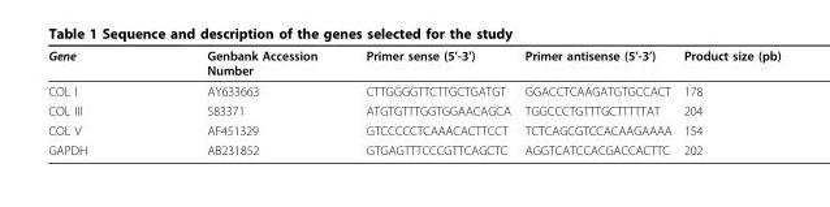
<table><thead><tr><td>Gene</td><td>Genbank Accession Number</td><td>Primer sense (5’-3’)</td><td>Primer antisense (5’-3’)</td><td>Product size (pb)</td></tr></thead><tbody><tr><td>COL I</td><td>AY633663</td><td>CTTGGGGTTCTTGCTGATGT</td><td>GGACCTCAAGATGTGCCACT</td><td>178</td></tr><tr><td>COL III</td><td>S83371</td><td>ATGTGTTTGGTGGAACAGCA</td><td>TGGCCCTGTTTGCTTTTTAT</td><td>204</td></tr><tr><td>COL V</td><td>AF451329</td><td>GTCCCCCTCAAACACTTCCT</td><td>TCTCAGCGTCCACAAGAAAA</td><td>154</td></tr><tr><td>GAPDH</td><td>AB231852</td><td>GTGAGTTTCCCGTTCAGCTC</td><td>AGGTCATCCACGACCACTTC</td><td>202</td></tr></tbody></table>